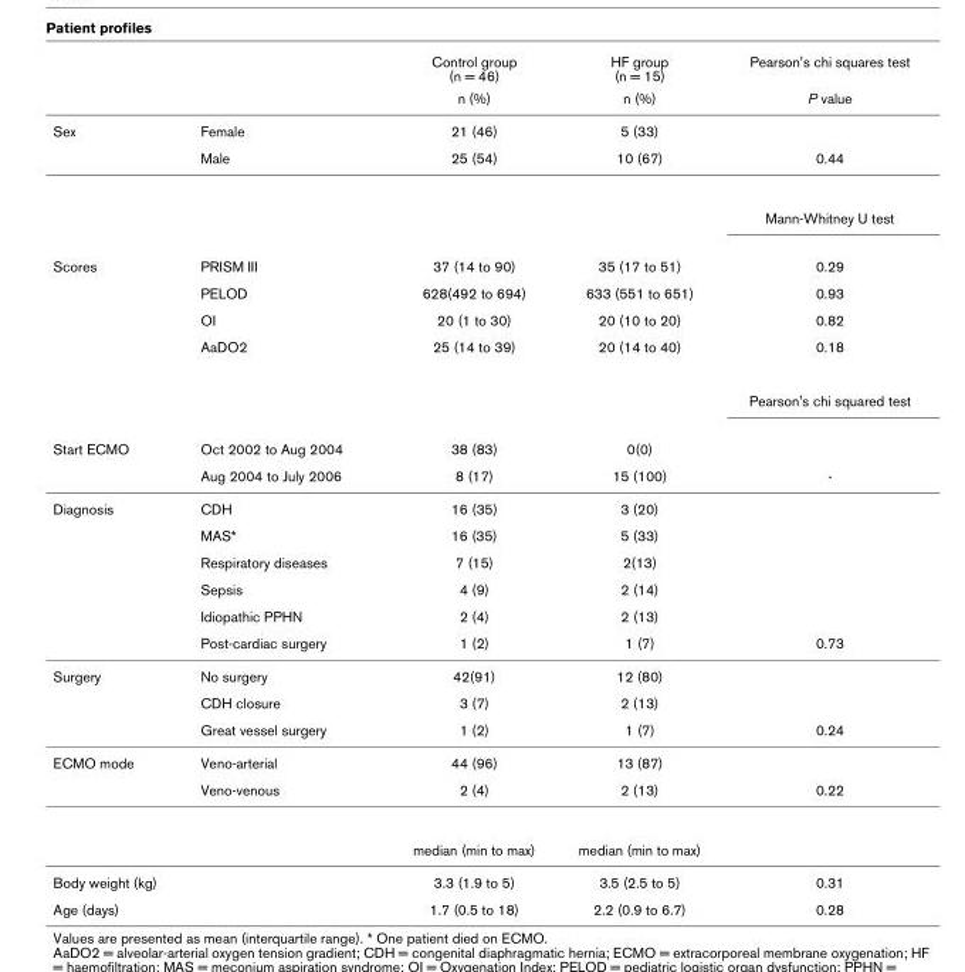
<table><thead><tr><td rowspan="2"></td><td rowspan="2"></td><td rowspan="2">Control group (n = 46) n (%)</td><td rowspan="2">HF group (n = 15) n (%)</td><td rowspan="2">Pearson&#x27;s chi squares test P value</td></tr><tr></tr></thead><tbody><tr><td rowspan="3">Sex</td><td>Female</td><td>21 (46)</td><td>5 (33)</td><td></td></tr><tr><td>Male</td><td>25 (54)</td><td>10 (67)</td><td>0.44</td></tr><tr><td></td><td></td><td></td><td>Mann-Whitney U test</td></tr><tr><td rowspan="5">Scores</td><td>PRISM III</td><td>37 (14 to 90)</td><td>35 (17 to 51)</td><td>0.29</td></tr><tr><td>PELOD</td><td>628(492 to 694)</td><td>633 (551 to 651)</td><td>0.93</td></tr><tr><td>OI</td><td>20 (1 to 30)</td><td>20 (10 to 20)</td><td>0.82</td></tr><tr><td>AaDO2</td><td>25 (14 to 39)</td><td>20 (14 to 40)</td><td>0.18</td></tr><tr><td></td><td></td><td></td><td>Pearson&#x27;s chi squared test</td></tr><tr><td rowspan="2">Start ECMO</td><td>Oct 2002 to Aug 2004</td><td>38 (83)</td><td>0(0)</td><td></td></tr><tr><td>Aug 2004 to July 2006</td><td>8 (17)</td><td>15 (100)</td><td>-</td></tr><tr><td rowspan="6">Diagnosis</td><td>CDH</td><td>16 (35)</td><td>3 (20)</td><td></td></tr><tr><td>MAS*</td><td>16 (35)</td><td>5 (33)</td><td></td></tr><tr><td>Respiratory diseases</td><td>7 (15)</td><td>2(13)</td><td></td></tr><tr><td>Sepsis</td><td>4 (9)</td><td>2 (14)</td><td></td></tr><tr><td>Idiopathic PPHN</td><td>2 (4)</td><td>2 (13)</td><td></td></tr><tr><td>Post-cardiac surgery</td><td>1 (2)</td><td>1 (7)</td><td>0.73</td></tr><tr><td rowspan="3">Surgery</td><td>No surgery</td><td>42(91)</td><td>12 (80)</td><td></td></tr><tr><td>CDH closure</td><td>3 (7)</td><td>2 (13)</td><td></td></tr><tr><td>Great vessel surgery</td><td>1 (2)</td><td>1 (7)</td><td>0.24</td></tr><tr><td rowspan="3">ECMO mode</td><td>Veno-arterial</td><td>44 (96)</td><td>13 (87)</td><td></td></tr><tr><td>Veno-venous</td><td>2 (4)</td><td>2 (13)</td><td>0.22</td></tr><tr><td></td><td>median (min to max)</td><td>median (min to max)</td><td></td></tr><tr><td>Body weight (kg)</td><td></td><td>3.3 (1.9 to 5)</td><td>3.5 (2.5 to 5)</td><td>0.31</td></tr><tr><td>Age (days)</td><td></td><td>1.7 (0.5 to 18)</td><td>2.2 (0.9 to 6.7)</td><td>0.28</td></tr></tbody></table>